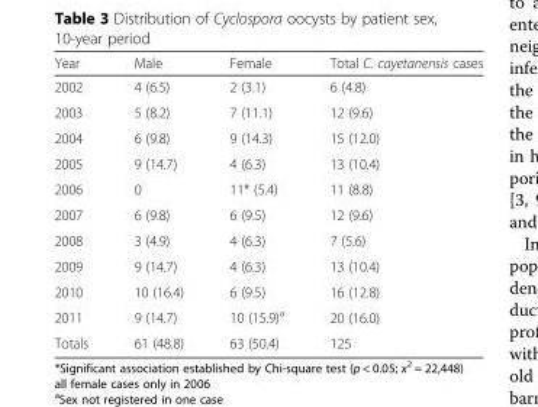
<table><thead><tr><td>Year</td><td>Male</td><td>Female</td><td>Total C. cayetanensis cases</td></tr></thead><tbody><tr><td>2002</td><td>4 (6.5)</td><td>2 (3.1)</td><td>6 (4.8)</td></tr><tr><td>2003</td><td>5 (8.2)</td><td>7 (11.1)</td><td>12 (9.6)</td></tr><tr><td>2004</td><td>6 (9.8)</td><td>9 (14.3)</td><td>15 (12.0)</td></tr><tr><td>2005</td><td>9 (14.7)</td><td>4 (6.3)</td><td>13 (10.4)</td></tr><tr><td>2006</td><td>0</td><td>11* (5.4)</td><td>11 (8.8)</td></tr><tr><td>2007</td><td>6 (9.8)</td><td>6 (9.5)</td><td>12 (9.6)</td></tr><tr><td>2008</td><td>3 (4.9)</td><td>4 (6.3)</td><td>7 (5.6)</td></tr><tr><td>2009</td><td>9 (14.7)</td><td>4 (6.3)</td><td>13 (10.4)</td></tr><tr><td>2010</td><td>10 (16.4)</td><td>6 (9.5)</td><td>16 (12.8)</td></tr><tr><td>2011</td><td>9 (14.7)</td><td>10 (15.9)<sup>a</sup></td><td>20 (16.0)</td></tr><tr><td>Totals</td><td>61 (48.8)</td><td>63 (50.4)</td><td>125</td></tr></tbody></table>